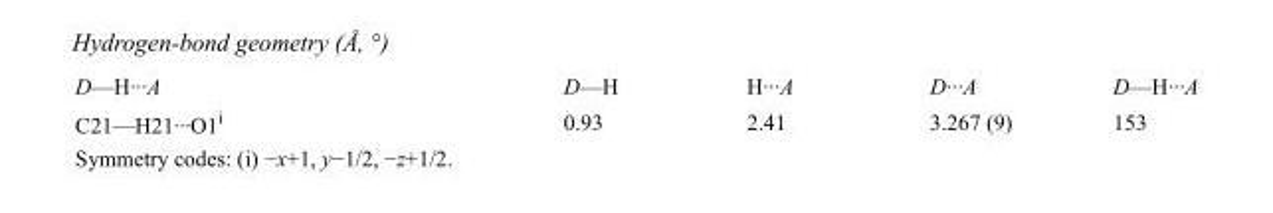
<table><tbody><tr><td>D—H···A</td><td>D—H</td><td>H···A</td><td>D···A</td><td>D—H···A</td></tr><tr><td>C21—H21···O1<sup>i</sup></td><td>0.93</td><td>2.41</td><td>3.267 (9)</td><td>153</td></tr></tbody></table>